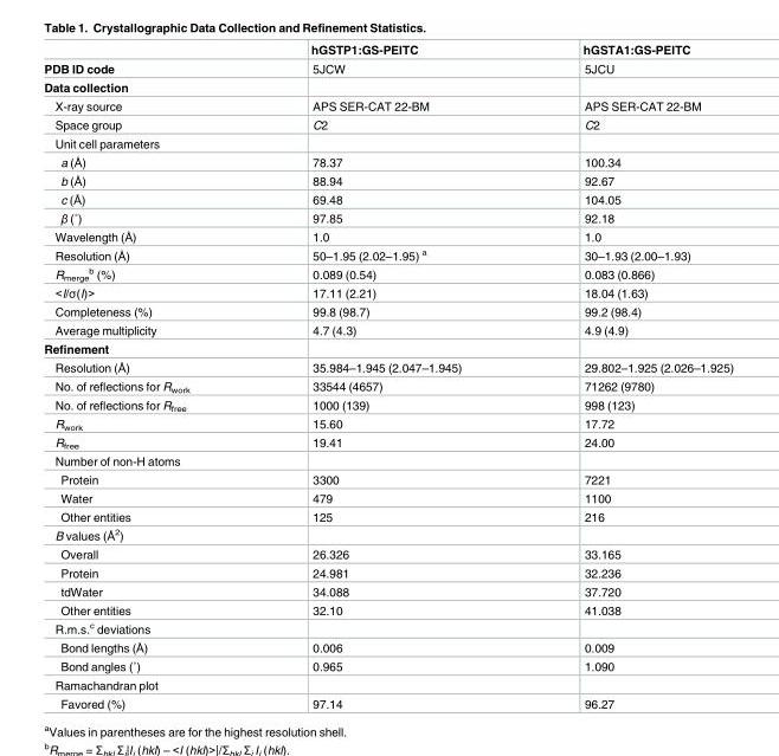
<table><thead><tr><td></td><td>hGSTP1:GS-PEITC</td><td>hGSTA1:GS-PEITC</td></tr></thead><tbody><tr><td>PDB ID code</td><td>5JCW</td><td>5JCU</td></tr><tr><td colspan="3">Data collection</td></tr><tr><td>X-ray source</td><td>APS SER-CAT 22-BM</td><td>APS SER-CAT 22-BM</td></tr><tr><td>Space group</td><td>C2</td><td>C2</td></tr><tr><td colspan="3">Unit cell parameters</td></tr><tr><td>a (Å)</td><td>78.37</td><td>100.34</td></tr><tr><td>b (Å)</td><td>88.94</td><td>92.67</td></tr><tr><td>c (Å)</td><td>69.48</td><td>104.05</td></tr><tr><td>β (˚)</td><td>97.85</td><td>92.18</td></tr><tr><td>Wavelength (Å)</td><td>1.0</td><td>1.0</td></tr><tr><td>Resolution (Å)</td><td>50–1.95 (2.02–1.95) <sup>a</sup></td><td>30–1.93 (2.00–1.93)</td></tr><tr><td>R<sub>merge</sub> <sup>b</sup> (%)</td><td>0.089 (0.54)</td><td>0.083 (0.866)</td></tr><tr><td>&lt;I/σ(I)&gt;</td><td>17.11 (2.21)</td><td>18.04 (1.63)</td></tr><tr><td>Completeness (%)</td><td>99.8 (98.7)</td><td>99.2 (98.4)</td></tr><tr><td>Average multiplicity</td><td>4.7 (4.3)</td><td>4.9 (4.9)</td></tr><tr><td colspan="3">Refinement</td></tr><tr><td>Resolution (Å)</td><td>35.984–1.945 (2.047–1.945)</td><td>29.802–1.925 (2.026–1.925)</td></tr><tr><td>No. of reflections for R<sub>work</sub></td><td>33544 (4657)</td><td>71262 (9780)</td></tr><tr><td>No. of reflections for R<sub>free</sub></td><td>1000 (139)</td><td>998 (123)</td></tr><tr><td>R<sub>work</sub></td><td>15.60</td><td>17.72</td></tr><tr><td>R<sub>free</sub></td><td>19.41</td><td>24.00</td></tr><tr><td colspan="3">Number of non-H atoms</td></tr><tr><td>Protein</td><td>3300</td><td>7221</td></tr><tr><td>Water</td><td>479</td><td>1100</td></tr><tr><td>Other entities</td><td>125</td><td>216</td></tr><tr><td colspan="3">B values (Å<sup>2</sup>)</td></tr><tr><td>Overall</td><td>26.326</td><td>33.165</td></tr><tr><td>Protein</td><td>24.981</td><td>32.236</td></tr><tr><td>tdWater</td><td>34.088</td><td>37.720</td></tr><tr><td>Other entities</td><td>32.10</td><td>41.038</td></tr><tr><td colspan="3">R.m.s.<sup>c</sup> deviations</td></tr><tr><td>Bond lengths (Å)</td><td>0.006</td><td>0.009</td></tr><tr><td>Bond angles (˚)</td><td>0.965</td><td>1.090</td></tr><tr><td colspan="3">Ramachandran plot</td></tr><tr><td>Favored (%)</td><td>97.14</td><td>96.27</td></tr></tbody></table>